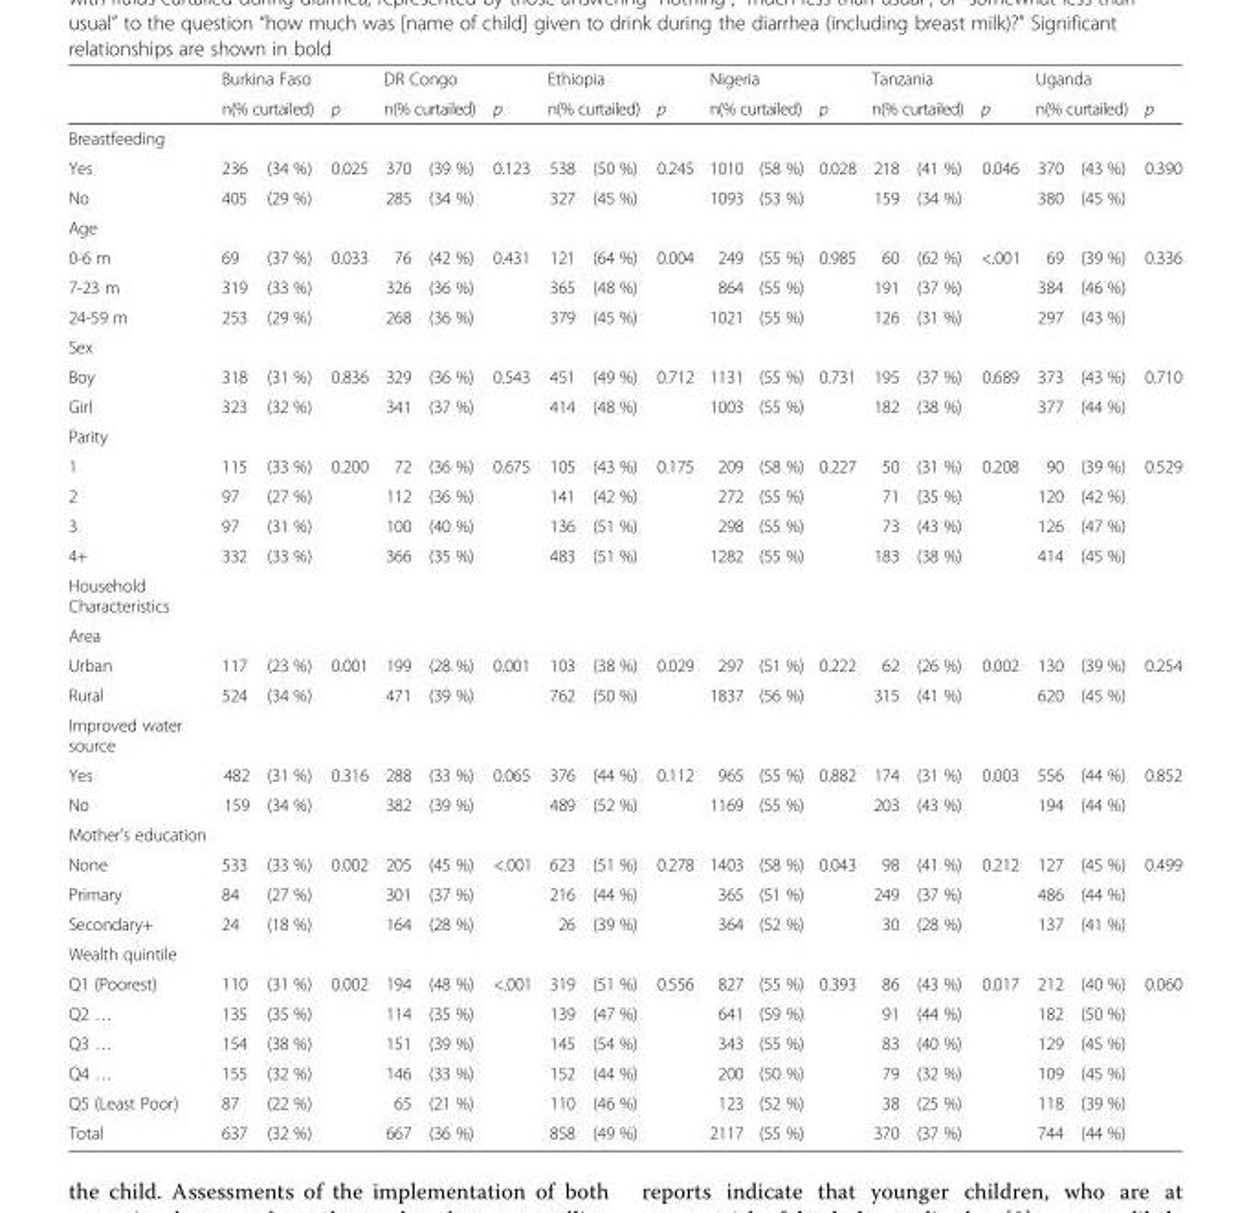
<table><thead><tr><td rowspan="3">Breastfeeding</td><td colspan="3">Burkina Faso</td><td colspan="3">DR Congo</td><td colspan="3">Ethiopia</td><td colspan="3">Nigeria</td><td colspan="3">Tanzania</td><td colspan="3">Uganda</td></tr><tr><td colspan="2">n(% curtailed)</td><td rowspan="2">p</td><td colspan="2">n(% curtailed)</td><td rowspan="2">p</td><td colspan="2">n(% curtailed)</td><td rowspan="2">p</td><td colspan="2">n(% curtailed)</td><td rowspan="2">p</td><td colspan="2">n(% curtailed)</td><td rowspan="2">p</td><td colspan="2">n(% curtailed)</td><td rowspan="2">p</td></tr><tr><td></td><td></td><td></td><td></td><td></td><td></td><td></td><td></td><td></td><td></td><td></td><td></td></tr></thead><tbody><tr><td>Yes</td><td>236</td><td>(34 %)</td><td>0.025</td><td>370</td><td>(39 %)</td><td>0.123</td><td>538</td><td>(50 %)</td><td>0.245</td><td>1010</td><td>(58 %)</td><td>0.028</td><td>218</td><td>(41 %)</td><td>0.046</td><td>370</td><td>(43 %)</td><td>0.390</td></tr><tr><td>No</td><td>405</td><td>(29 %)</td><td></td><td>285</td><td>(34 %)</td><td></td><td>327</td><td>(45 %)</td><td></td><td>1093</td><td>(53 %)</td><td></td><td>159</td><td>(34 %)</td><td></td><td>380</td><td>(45 %)</td><td></td></tr><tr><td colspan="19">Age</td></tr><tr><td>0-6 m</td><td>69</td><td>(37 %)</td><td>0.033</td><td>76</td><td>(42 %)</td><td>0.431</td><td>121</td><td>(64 %)</td><td>0.004</td><td>249</td><td>(55 %)</td><td>0.985</td><td>60</td><td>(62 %)</td><td>&lt;.001</td><td>69</td><td>(39 %)</td><td>0.336</td></tr><tr><td>7-23 m</td><td>319</td><td>(33 %)</td><td></td><td>326</td><td>(36 %)</td><td></td><td>365</td><td>(48 %)</td><td></td><td>864</td><td>(55 %)</td><td></td><td>191</td><td>(37 %)</td><td></td><td>384</td><td>(46 %)</td><td></td></tr><tr><td>24-59 m</td><td>253</td><td>(29 %)</td><td></td><td>268</td><td>(36 %)</td><td></td><td>379</td><td>(45 %)</td><td></td><td>1021</td><td>(55 %)</td><td></td><td>126</td><td>(31 %)</td><td></td><td>297</td><td>(43 %)</td><td></td></tr><tr><td colspan="19">Sex</td></tr><tr><td>Boy</td><td>318</td><td>(31 %)</td><td>0.836</td><td>329</td><td>(36 %)</td><td>0.543</td><td>451</td><td>(49 %)</td><td>0.712</td><td>1131</td><td>(55 %)</td><td>0.731</td><td>195</td><td>(37 %)</td><td>0.689</td><td>373</td><td>(43 %)</td><td>0.710</td></tr><tr><td>Girl</td><td>323</td><td>(32 %)</td><td></td><td>341</td><td>(37 %)</td><td></td><td>414</td><td>(48 %)</td><td></td><td>1003</td><td>(55 %)</td><td></td><td>182</td><td>(38 %)</td><td></td><td>377</td><td>(44 %)</td><td></td></tr><tr><td colspan="19">Parity</td></tr><tr><td>1</td><td>115</td><td>(33 %)</td><td>0.200</td><td>72</td><td>(36 %)</td><td>0.675</td><td>105</td><td>(43 %)</td><td>0.175</td><td>209</td><td>(58 %)</td><td>0.227</td><td>50</td><td>(31 %)</td><td>0.208</td><td>90</td><td>(39 %)</td><td>0.529</td></tr><tr><td>2</td><td>97</td><td>(27 %)</td><td></td><td>112</td><td>(36 %)</td><td></td><td>141</td><td>(42 %)</td><td></td><td>272</td><td>(55 %)</td><td></td><td>71</td><td>(35 %)</td><td></td><td>120</td><td>(42 %)</td><td></td></tr><tr><td>3</td><td>97</td><td>(31 %)</td><td></td><td>100</td><td>(40 %)</td><td></td><td>136</td><td>(51 %)</td><td></td><td>298</td><td>(55 %)</td><td></td><td>73</td><td>(43 %)</td><td></td><td>126</td><td>(47 %)</td><td></td></tr><tr><td>4+</td><td>332</td><td>(33 %)</td><td></td><td>366</td><td>(35 %)</td><td></td><td>483</td><td>(51 %)</td><td></td><td>1282</td><td>(55 %)</td><td></td><td>183</td><td>(38 %)</td><td></td><td>414</td><td>(45 %)</td><td></td></tr><tr><td colspan="19">Household Characteristics</td></tr><tr><td colspan="19">Area</td></tr><tr><td>Urban</td><td>117</td><td>(23 %)</td><td>0.001</td><td>199</td><td>(28 %)</td><td>0.001</td><td>103</td><td>(38 %)</td><td>0.029</td><td>297</td><td>(51 %)</td><td>0.222</td><td>62</td><td>(26 %)</td><td>0.002</td><td>130</td><td>(39 %)</td><td>0.254</td></tr><tr><td>Rural</td><td>524</td><td>(34 %)</td><td></td><td>471</td><td>(39 %)</td><td></td><td>762</td><td>(50 %)</td><td></td><td>1837</td><td>(56 %)</td><td></td><td>315</td><td>(41 %)</td><td></td><td>620</td><td>(45 %)</td><td></td></tr><tr><td colspan="19">Improved water source</td></tr><tr><td>Yes</td><td>482</td><td>(31 %)</td><td>0.316</td><td>288</td><td>(33 %)</td><td>0.065</td><td>376</td><td>(44 %)</td><td>0.112</td><td>965</td><td>(55 %)</td><td>0.882</td><td>174</td><td>(31 %)</td><td>0.003</td><td>556</td><td>(44 %)</td><td>0.852</td></tr><tr><td>No</td><td>159</td><td>(34 %)</td><td></td><td>382</td><td>(39 %)</td><td></td><td>489</td><td>(52 %)</td><td></td><td>1169</td><td>(55 %)</td><td></td><td>203</td><td>(43 %)</td><td></td><td>194</td><td>(44 %)</td><td></td></tr><tr><td colspan="19">Mother&#x27;s education</td></tr><tr><td>None</td><td>533</td><td>(33 %)</td><td>0.002</td><td>205</td><td>(45 %)</td><td>&lt;.001</td><td>623</td><td>(51 %)</td><td>0.278</td><td>1403</td><td>(58 %)</td><td>0.043</td><td>98</td><td>(41 %)</td><td>0.212</td><td>127</td><td>(45 %)</td><td>0.499</td></tr><tr><td>Primary</td><td>84</td><td>(27 %)</td><td></td><td>301</td><td>(37 %)</td><td></td><td>216</td><td>(44 %)</td><td></td><td>365</td><td>(51 %)</td><td></td><td>249</td><td>(37 %)</td><td></td><td>486</td><td>(44 %)</td><td></td></tr><tr><td>Secondary+</td><td>24</td><td>(18 %)</td><td></td><td>164</td><td>(28 %)</td><td></td><td>26</td><td>(39 %)</td><td></td><td>364</td><td>(52 %)</td><td></td><td>30</td><td>(28 %)</td><td></td><td>137</td><td>(41 %)</td><td></td></tr><tr><td colspan="19">Wealth quintile</td></tr><tr><td>Q1 (Poorest)</td><td>110</td><td>(31 %)</td><td>0.002</td><td>194</td><td>(48 %)</td><td>&lt;.001</td><td>319</td><td>(51 %)</td><td>0.556</td><td>827</td><td>(55 %)</td><td>0.393</td><td>86</td><td>(43 %)</td><td>0.017</td><td>212</td><td>(40 %)</td><td>0.060</td></tr><tr><td>Q2 …</td><td>135</td><td>(35 %)</td><td></td><td>114</td><td>(35 %)</td><td></td><td>139</td><td>(47 %)</td><td></td><td>641</td><td>(59 %)</td><td></td><td>91</td><td>(44 %)</td><td></td><td>182</td><td>(50 %)</td><td></td></tr><tr><td>Q3 …</td><td>154</td><td>(38 %)</td><td></td><td>151</td><td>(39 %)</td><td></td><td>145</td><td>(54 %)</td><td></td><td>343</td><td>(55 %)</td><td></td><td>83</td><td>(40 %)</td><td></td><td>129</td><td>(45 %)</td><td></td></tr><tr><td>Q4 …</td><td>155</td><td>(32 %)</td><td></td><td>146</td><td>(33 %)</td><td></td><td>152</td><td>(44 %)</td><td></td><td>200</td><td>(50 %)</td><td></td><td>79</td><td>(32 %)</td><td></td><td>109</td><td>(45 %)</td><td></td></tr><tr><td>Q5 (Least Poor)</td><td>87</td><td>(22 %)</td><td></td><td>65</td><td>(21 %)</td><td></td><td>110</td><td>(46 %)</td><td></td><td>123</td><td>(52 %)</td><td></td><td>38</td><td>(25 %)</td><td></td><td>118</td><td>(39 %)</td><td></td></tr><tr><td>Total</td><td>637</td><td>(32 %)</td><td></td><td>667</td><td>(36 %)</td><td></td><td>858</td><td>(49 %)</td><td></td><td>2117</td><td>(55 %)</td><td></td><td>370</td><td>(37 %)</td><td></td><td>744</td><td>(44 %)</td><td></td></tr></tbody></table>